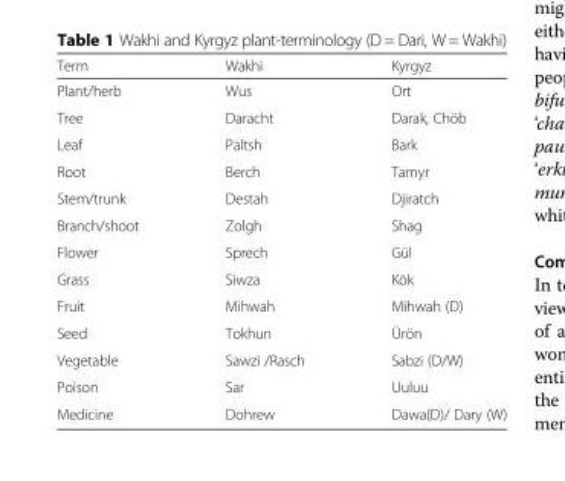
<table><thead><tr><td>Term</td><td>Wakhi</td><td>Kyrgyz</td></tr></thead><tbody><tr><td>Plant/herb</td><td>Wus</td><td>Ort</td></tr><tr><td>Tree</td><td>Daracht</td><td>Darak, Chöb</td></tr><tr><td>Leaf</td><td>Paltsh</td><td>Bark</td></tr><tr><td>Root</td><td>Berch</td><td>Tamyr</td></tr><tr><td>Stem/trunk</td><td>Destah</td><td>Djiratch</td></tr><tr><td>Branch/shoot</td><td>Zolgh</td><td>Shag</td></tr><tr><td>Flower</td><td>Sprech</td><td>Gül</td></tr><tr><td>Grass</td><td>Siwza</td><td>Kök</td></tr><tr><td>Fruit</td><td>Mihwah</td><td>Mihwah (D)</td></tr><tr><td>Seed</td><td>Tokhun</td><td>Ürön</td></tr><tr><td>Vegetable</td><td>Sawzi /Rasch</td><td>Sabzi (D/W)</td></tr><tr><td>Poison</td><td>Sar</td><td>Uuluu</td></tr><tr><td>Medicine</td><td>Dohrew</td><td>Dawa(D)/ Dary (W)</td></tr></tbody></table>